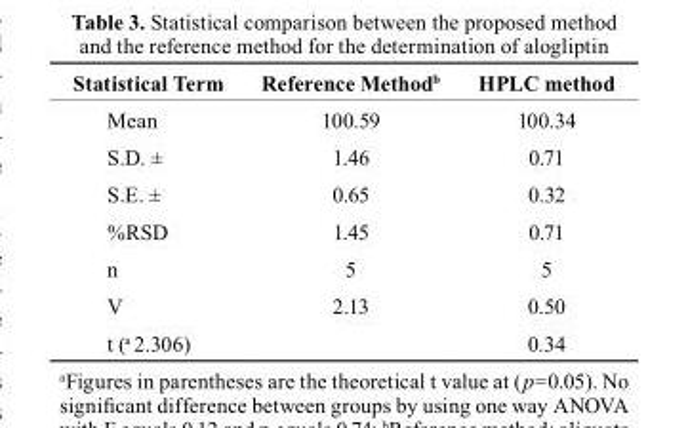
<table><thead><tr><td>statistical term</td><td>reference Method<sup>b</sup></td><td>HPLc method</td></tr></thead><tbody><tr><td>Mean</td><td>100.59</td><td>100.34</td></tr><tr><td>S.D. ±</td><td>1.46</td><td>0.71</td></tr><tr><td>S.E. ±</td><td>0.65</td><td>0.32</td></tr><tr><td>%RSD</td><td>1.45</td><td>0.71</td></tr><tr><td>n</td><td>5</td><td>5</td></tr><tr><td>V</td><td>2.13</td><td>0.50</td></tr><tr><td>t (a 2.306)</td><td></td><td>0.34</td></tr></tbody></table>